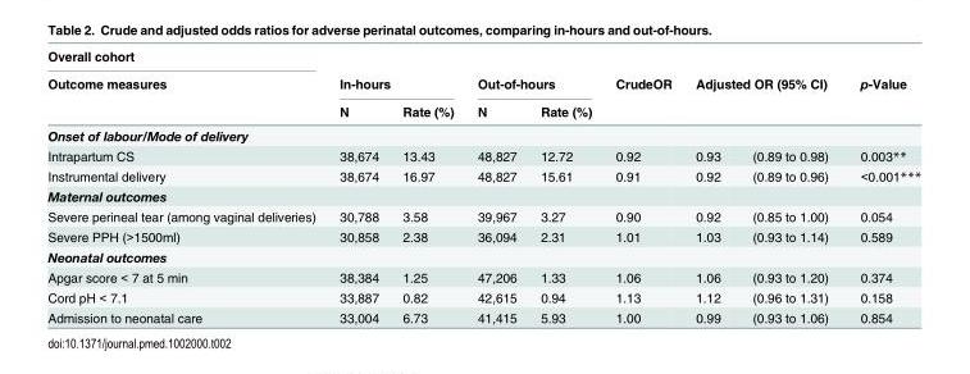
<table><thead><tr><td rowspan="3">Overall cohort Outcome measures</td><td></td><td></td><td></td><td></td><td rowspan="3">CrudeOR</td><td></td><td></td><td rowspan="3">p-Value</td></tr><tr><td colspan="2">In-hours</td><td colspan="2">Out-of-hours</td><td colspan="2">Adjusted OR (95% CI)</td></tr><tr><td>N</td><td>Rate (%)</td><td>N</td><td>Rate (%)</td><td></td><td></td></tr></thead><tbody><tr><td colspan="9">Onset of labour/Mode of delivery</td></tr><tr><td>Intrapartum CS</td><td>38,674</td><td>13.43</td><td>48,827</td><td>12.72</td><td>0.92</td><td>0.93</td><td>(0.89 to 0.98)</td><td>0.003**</td></tr><tr><td>Instrumental delivery</td><td>38,674</td><td>16.97</td><td>48,827</td><td>15.61</td><td>0.91</td><td>0.92</td><td>(0.89 to 0.96)</td><td>&lt;0.001***</td></tr><tr><td colspan="9">Maternal outcomes</td></tr><tr><td>Severe perineal tear (among vaginal deliveries)</td><td>30,788</td><td>3.58</td><td>39,967</td><td>3.27</td><td>0.90</td><td>0.92</td><td>(0.85 to 1.00)</td><td>0.054</td></tr><tr><td>Severe PPH (&gt;1500ml)</td><td>30,858</td><td>2.38</td><td>36,094</td><td>2.31</td><td>1.01</td><td>1.03</td><td>(0.93 to 1.14)</td><td>0.589</td></tr><tr><td colspan="9">Neonatal outcomes</td></tr><tr><td>Apgar score &lt; 7 at 5 min</td><td>38,384</td><td>1.25</td><td>47,206</td><td>1.33</td><td>1.06</td><td>1.06</td><td>(0.93 to 1.20)</td><td>0.374</td></tr><tr><td>Cord pH &lt; 7.1</td><td>33,887</td><td>0.82</td><td>42,615</td><td>0.94</td><td>1.13</td><td>1.12</td><td>(0.96 to 1.31)</td><td>0.158</td></tr><tr><td>Admission to neonatal care</td><td>33,004</td><td>6.73</td><td>41,415</td><td>5.93</td><td>1.00</td><td>0.99</td><td>(0.93 to 1.06)</td><td>0.854</td></tr></tbody></table>